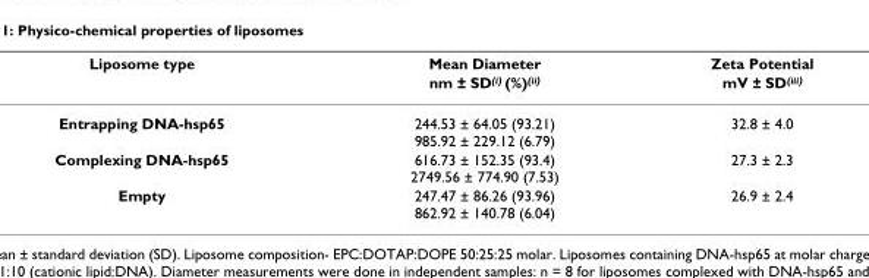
<table><thead><tr><td rowspan="2">Liposome type</td><td rowspan="2">Mean Diameter nm ± SD(i) (%)(ii)</td><td rowspan="2">Zeta Potential mV ± SD(iii)</td></tr><tr></tr></thead><tbody><tr><td>Entrapping DNA-hsp65</td><td>244.53 ± 64.05 (93.21) 985.92 ± 229.12 (6.79)</td><td>32.8 ± 4.0</td></tr><tr><td>Complexing DNA-hsp65</td><td>616.73 ± 152.35 (93.4) 2749.56 ± 774.90 (7.53)</td><td>27.3 ± 2.3</td></tr><tr><td>Empty</td><td>247.47 ± 86.26 (93.96) 862.92 ± 140.78 (6.04)</td><td>26.9 ± 2.4</td></tr></tbody></table>